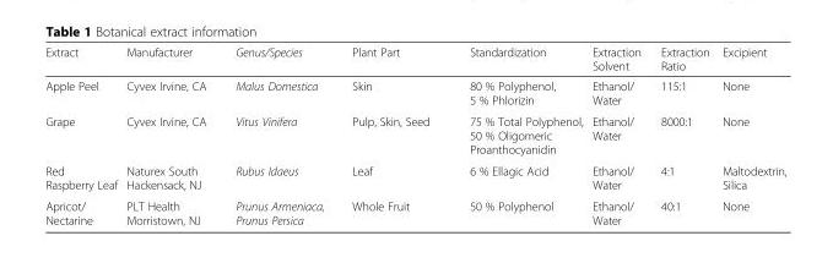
<table><thead><tr><td>Extract</td><td>Manufacturer</td><td>Genus/Species</td><td>Plant Part</td><td>Standardization</td><td>Extraction Solvent</td><td>Extraction Ratio</td><td>Excipient</td></tr></thead><tbody><tr><td>Apple Peel</td><td>Cyvex Irvine, CA</td><td>Malus Domestica</td><td>Skin</td><td>80 % Polyphenol, 5 % Phlorizin</td><td>Ethanol/ Water</td><td>115:1</td><td>None</td></tr><tr><td>Grape</td><td>Cyvex Irvine, CA</td><td>Vitus Vinifera</td><td>Pulp, Skin, Seed</td><td>75 % Total Polyphenol, 50 % Oligomeric Proanthocyanidin</td><td>Ethanol/ Water</td><td>8000:1</td><td>None</td></tr><tr><td>Red Raspberry Leaf</td><td>Naturex South Hackensack, NJ</td><td>Rubus Idaeus</td><td>Leaf</td><td>6 % Ellagic Acid</td><td>Ethanol/ Water</td><td>4:1</td><td>Maltodextrin, Silica</td></tr><tr><td>Apricot/ Nectarine</td><td>PLT Health Morristown, NJ</td><td>Prunus Armeniaca, Prunus Persica</td><td>Whole Fruit</td><td>50 % Polyphenol</td><td>Ethanol/ Water</td><td>40:1</td><td>None</td></tr></tbody></table>